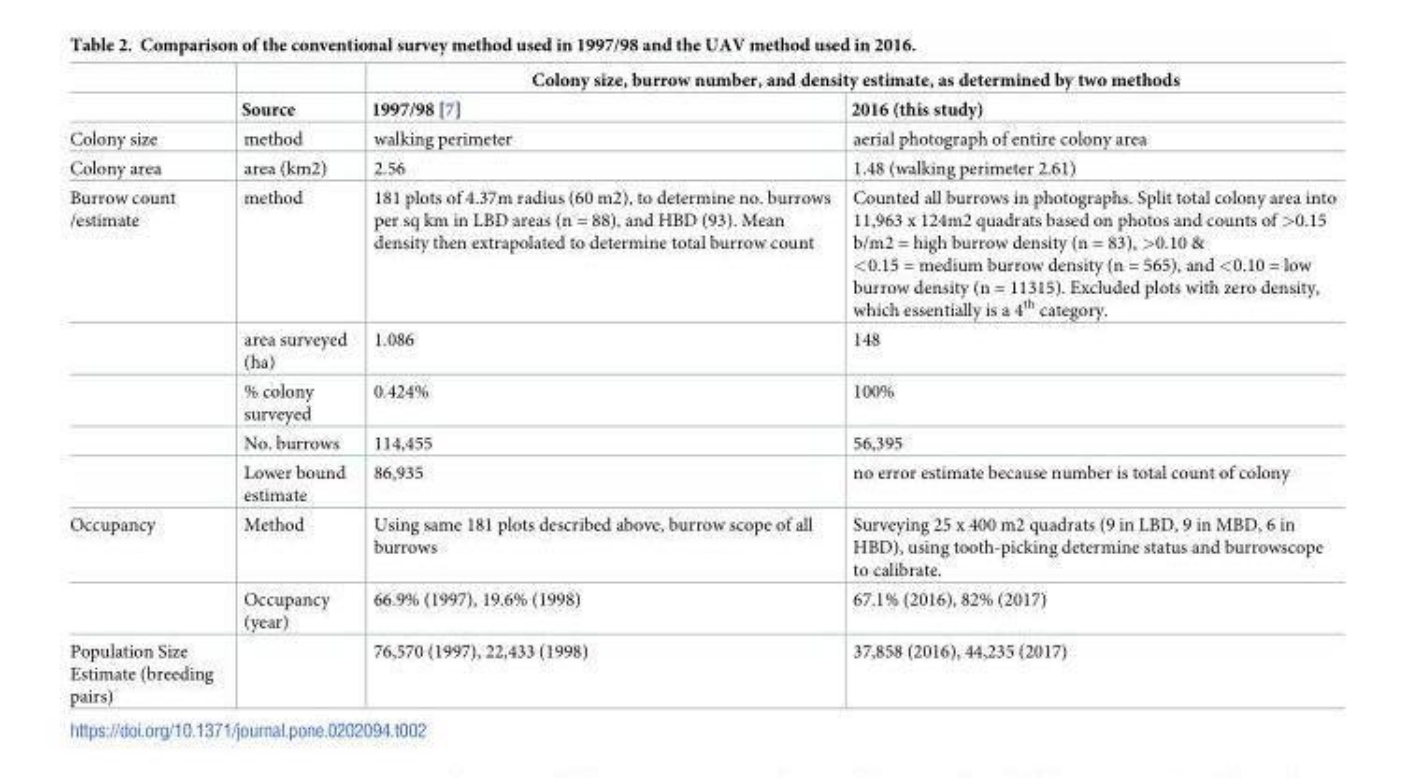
<table><thead><tr><td rowspan="2"></td><td rowspan="2">Source</td><td colspan="2">Colony size, burrow number, and density estimate, as determined by two methods</td></tr><tr><td>1997/98 [7]</td><td>2016 (this study)</td></tr></thead><tbody><tr><td>Colony size</td><td>method</td><td>walking perimeter</td><td>aerial photograph of entire colony area</td></tr><tr><td>Colony area</td><td>area (km2)</td><td>2.56</td><td>1.48 (walking perimeter 2.61)</td></tr><tr><td rowspan="5">Burrow count /estimate</td><td>method</td><td>181 plots of 4.37m radius (60 m2), to determine no. burrows per sq km in LBD areas (n = 88), and HBD (93). Mean density then extrapolated to determine total burrow count</td><td>Counted all burrows in photographs. Split total colony area into 11,963 x 124m2 quadrats based on photos and counts of &gt;0.15 b/m2 = high burrow density (n = 83), &gt;0.10 &amp; &lt;0.15 = medium burrow density (n = 565), and &lt;0.10 = low burrow density (n = 11315). Excluded plots with zero density, which essentially is a 4<sup>th</sup> category.</td></tr><tr><td>area surveyed (ha)</td><td>1.086</td><td>148</td></tr><tr><td>% colony surveyed</td><td>0.424%</td><td>100%</td></tr><tr><td>No. burrows</td><td>114,455</td><td>56,395</td></tr><tr><td>Lower bound estimate</td><td>86,935</td><td>no error estimate because number is total count of colony</td></tr><tr><td rowspan="2">Occupancy</td><td>Method</td><td>Using same 181 plots described above, burrow scope of all burrows</td><td>Surveying 25 x 400 m2 quadrats (9 in LBD, 9 in MBD, 6 in HBD), using tooth-picking determine status and burrowscope to calibrate.</td></tr><tr><td>Occupancy (year)</td><td>66.9% (1997), 19.6% (1998)</td><td>67.1% (2016), 82% (2017)</td></tr><tr><td>Population Size Estimate (breeding pairs)</td><td></td><td>76,570 (1997), 22,433 (1998)</td><td>37,858 (2016), 44,235 (2017)</td></tr></tbody></table>